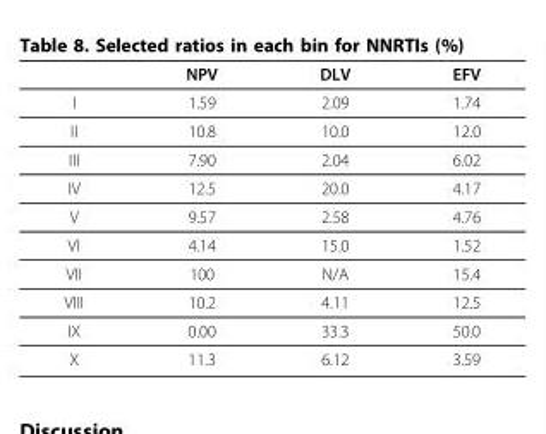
<table><thead><tr><td></td><td>NPV</td><td>DLV</td><td>EFV</td></tr></thead><tbody><tr><td>I</td><td>1.59</td><td>2.09</td><td>1.74</td></tr><tr><td>II</td><td>10.8</td><td>10.0</td><td>12.0</td></tr><tr><td>III</td><td>7.90</td><td>2.04</td><td>6.02</td></tr><tr><td>IV</td><td>12.5</td><td>20.0</td><td>4.17</td></tr><tr><td>V</td><td>9.57</td><td>2.58</td><td>4.76</td></tr><tr><td>VI</td><td>4.14</td><td>15.0</td><td>1.52</td></tr><tr><td>VII</td><td>100</td><td>N/A</td><td>15.4</td></tr><tr><td>VIII</td><td>10.2</td><td>4.11</td><td>12.5</td></tr><tr><td>IX</td><td>0.00</td><td>33.3</td><td>50.0</td></tr><tr><td>X</td><td>11.3</td><td>6.12</td><td>3.59</td></tr></tbody></table>